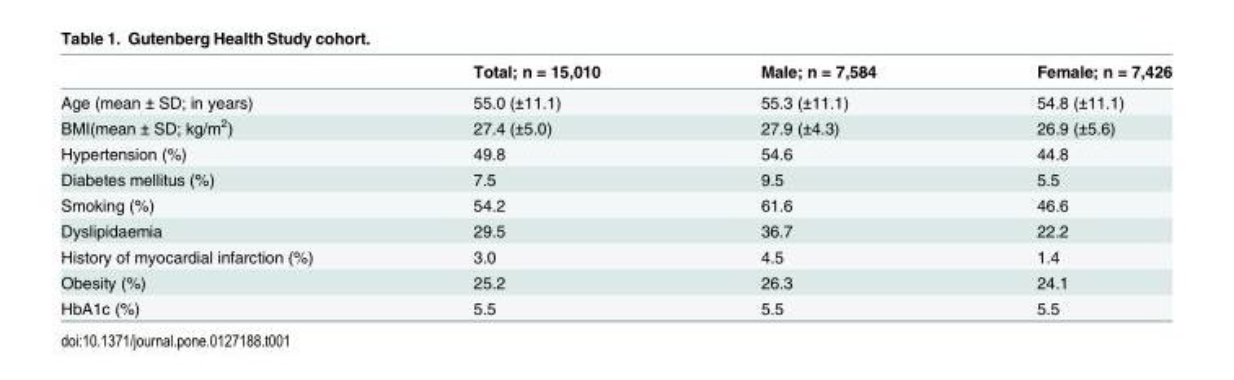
<table><thead><tr><td></td><td>Total; n = 15,010</td><td>Male; n = 7,584</td><td>Female; n = 7,426</td></tr></thead><tbody><tr><td>Age (mean ± SD; in years)</td><td>55.0 (±11.1)</td><td>55.3 (±11.1)</td><td>54.8 (±11.1)</td></tr><tr><td>BMI(mean ± SD; kg/m<sup>2</sup>)</td><td>27.4 (±5.0)</td><td>27.9 (±4.3)</td><td>26.9 (±5.6)</td></tr><tr><td>Hypertension (%)</td><td>49.8</td><td>54.6</td><td>44.8</td></tr><tr><td>Diabetes mellitus (%)</td><td>7.5</td><td>9.5</td><td>5.5</td></tr><tr><td>Smoking (%)</td><td>54.2</td><td>61.6</td><td>46.6</td></tr><tr><td>Dyslipidaemia</td><td>29.5</td><td>36.7</td><td>22.2</td></tr><tr><td>History of myocardial infarction (%)</td><td>3.0</td><td>4.5</td><td>1.4</td></tr><tr><td>Obesity (%)</td><td>25.2</td><td>26.3</td><td>24.1</td></tr><tr><td>HbA1c (%)</td><td>5.5</td><td>5.5</td><td>5.5</td></tr></tbody></table>